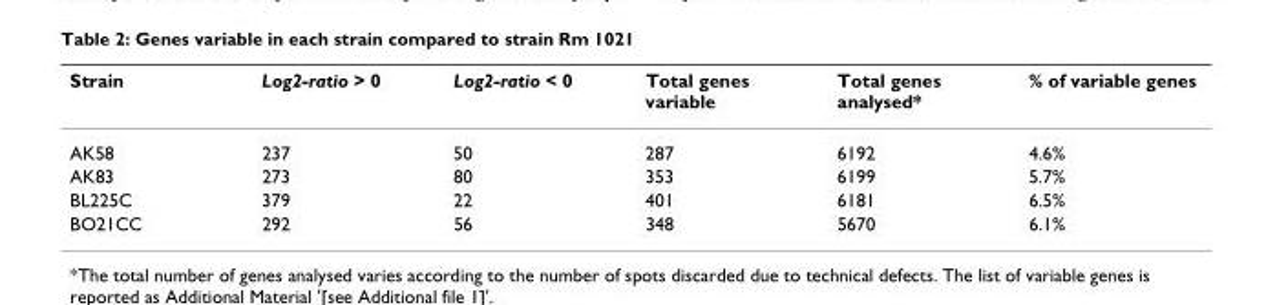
<table><thead><tr><td>Strain</td><td>Log2-ratio &gt; 0</td><td>Log2-ratio &lt; 0</td><td>Total genes variable</td><td>Total genes analysed*</td><td>% of variable genes</td></tr></thead><tbody><tr><td>AK58</td><td>237</td><td>50</td><td>287</td><td>6192</td><td>4.6%</td></tr><tr><td>AK83</td><td>273</td><td>80</td><td>353</td><td>6199</td><td>5.7%</td></tr><tr><td>BL225C</td><td>379</td><td>22</td><td>401</td><td>6181</td><td>6.5%</td></tr><tr><td>BO21CC</td><td>292</td><td>56</td><td>348</td><td>5670</td><td>6.1%</td></tr></tbody></table>